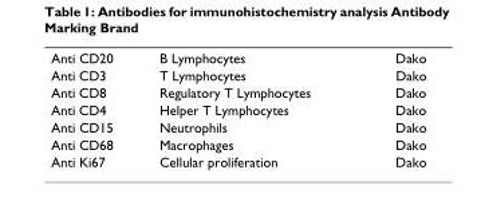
<table><tbody><tr><td>Anti CD20</td><td>B Lymphocytes</td><td>Dako</td></tr><tr><td>Anti CD3</td><td>T Lymphocytes</td><td>Dako</td></tr><tr><td>Anti CD8</td><td>Regulatory T Lymphocytes</td><td>Dako</td></tr><tr><td>Anti CD4</td><td>Helper T Lymphocytes</td><td>Dako</td></tr><tr><td>Anti CD15</td><td>Neutrophils</td><td>Dako</td></tr><tr><td>Anti CD68</td><td>Macrophages</td><td>Dako</td></tr><tr><td>Anti Ki67</td><td>Cellular proliferation</td><td>Dako</td></tr></tbody></table>